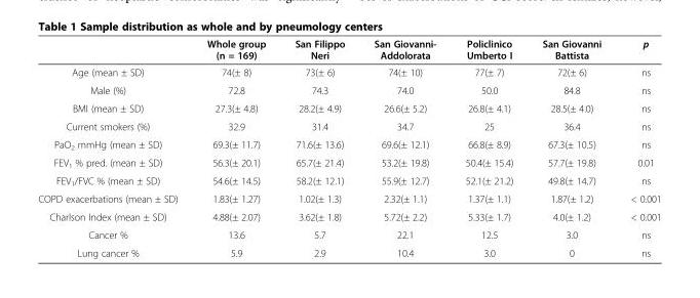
<table><thead><tr><td></td><td>Whole group (n = 169)</td><td>San Filippo Neri</td><td>San Giovanni- Addolorata</td><td>Policlinico Umberto I</td><td>San Giovanni Battista</td><td>p</td></tr></thead><tbody><tr><td>Age (mean ± SD)</td><td>74(± 8)</td><td>73(± 6)</td><td>74(± 10)</td><td>77(± 7)</td><td>72(± 6)</td><td>ns</td></tr><tr><td>Male (%)</td><td>72.8</td><td>74.3</td><td>74.0</td><td>50.0</td><td>84.8</td><td>ns</td></tr><tr><td>BMI (mean ± SD)</td><td>27.3(± 4.8)</td><td>28.2(± 4.9)</td><td>26.6(± 5.2)</td><td>26.8(± 4.1)</td><td>28.5(± 4.0)</td><td>ns</td></tr><tr><td>Current smokers (%)</td><td>32.9</td><td>31.4</td><td>34.7</td><td>25</td><td>36.4</td><td>ns</td></tr><tr><td>PaO<sub>2</sub> mmHg (mean ± SD)</td><td>69.3(± 11.7)</td><td>71.6(± 13.6)</td><td>69.6(± 12.1)</td><td>66.8(± 8.9)</td><td>67.3(± 10.5)</td><td>ns</td></tr><tr><td>FEV<sub>1</sub> % pred. (mean ± SD)</td><td>56.3(± 20.1)</td><td>65.7(± 21.4)</td><td>53.2(± 19.8)</td><td>50.4(± 15.4)</td><td>57.7(± 19.8)</td><td>0.01</td></tr><tr><td>FEV<sub>1</sub>/FVC % (mean ± SD)</td><td>54.6(± 14.5)</td><td>58.2(± 12.1)</td><td>55.9(± 12.7)</td><td>52.1(± 21.2)</td><td>49.8(± 14.7)</td><td>ns</td></tr><tr><td>COPD exacerbations (mean ± SD)</td><td>1.83(± 1.27)</td><td>1.02(± 1.3)</td><td>2.32(± 1.1)</td><td>1.37(± 1.1)</td><td>1.87(± 1.2)</td><td>&lt; 0.001</td></tr><tr><td>Charlson Index (mean ± SD)</td><td>4.88(± 2.07)</td><td>3.62(± 1.8)</td><td>5.72(± 2.2)</td><td>5.33(± 1.7)</td><td>4.0(± 1.2)</td><td>&lt; 0.001</td></tr><tr><td>Cancer %</td><td>13.6</td><td>5.7</td><td>22.1</td><td>12.5</td><td>3.0</td><td>ns</td></tr><tr><td>Lung cancer %</td><td>5.9</td><td>2.9</td><td>10.4</td><td>3.0</td><td>0</td><td>ns</td></tr></tbody></table>